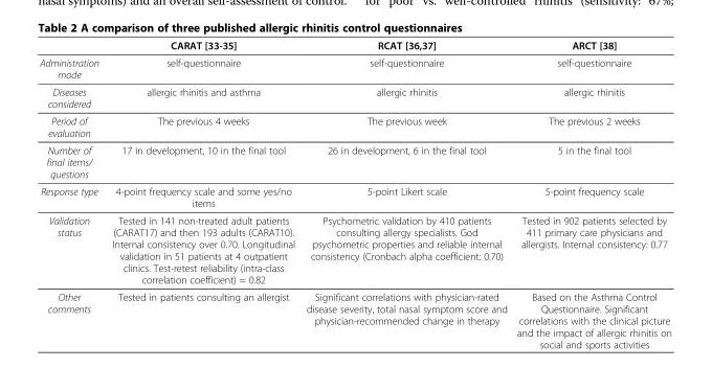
<table><thead><tr><td></td><td>CARAT [33-35]</td><td>RCAT [36,37]</td><td>ARCT [38]</td></tr></thead><tbody><tr><td>Administration mode</td><td>self-questionnaire</td><td>self-questionnaire</td><td>self-questionnaire</td></tr><tr><td>Diseases considered</td><td>allergic rhinitis and asthma</td><td>allergic rhinitis</td><td>allergic rhinitis</td></tr><tr><td>Period of evaluation</td><td>The previous 4 weeks</td><td>The previous week</td><td>The previous 2 weeks</td></tr><tr><td>Number of final items/ questions</td><td>17 in development, 10 in the final tool</td><td>26 in development, 6 in the final tool</td><td>5 in the final tool</td></tr><tr><td>Response type</td><td>4-point frequency scale and some yes/no items</td><td>5-point Likert scale</td><td>5-point frequency scale</td></tr><tr><td>Validation status</td><td>Tested in 141 non-treated adult patients (CARAT17) and then 193 adults (CARAT10). Internal consistency over 0.70. Longitudinal validation in 51 patients at 4 outpatient clinics. Test-retest reliability (intra-class correlation coefficient) = 0.82</td><td>Psychometric validation by 410 patients consulting allergy specialists. God psychometric properties and reliable internal consistency (Cronbach alpha coefficient: 0.70)</td><td>Tested in 902 patients selected by 411 primary care physicians and allergists. Internal consistency: 0.77</td></tr><tr><td>Other comments</td><td>Tested in patients consulting an allergist</td><td>Significant correlations with physician-rated disease severity, total nasal symptom score and physician-recommended change in therapy</td><td>Based on the Asthma Control Questionnaire. Significant correlations with the clinical picture and the impact of allergic rhinitis on social and sports activities</td></tr></tbody></table>